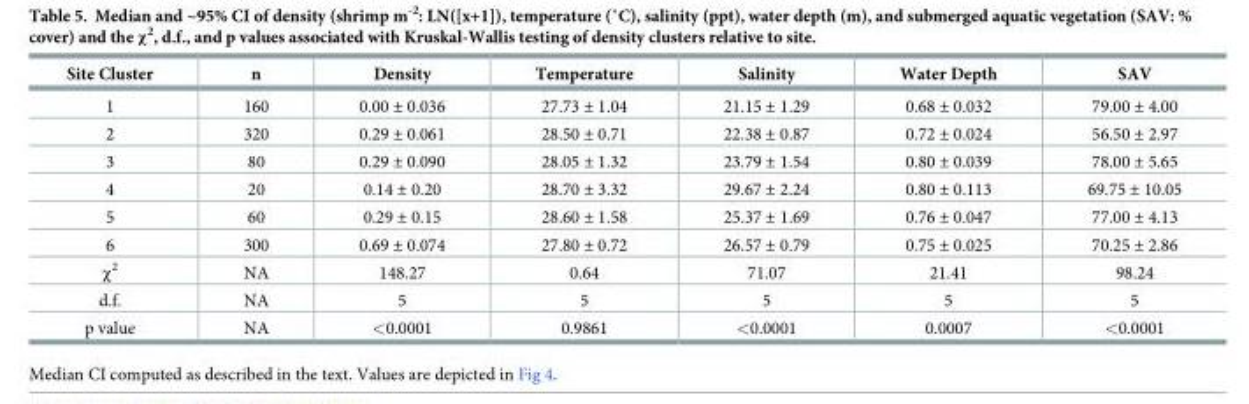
<table><thead><tr><td>Site Cluster</td><td>n</td><td>Density</td><td>Temperature</td><td>Salinity</td><td>Water Depth</td><td>SAV</td></tr></thead><tbody><tr><td>1</td><td>160</td><td>0.00 ± 0.036</td><td>27.73 ± 1.04</td><td>21.15 ± 1.29</td><td>0.68 ± 0.032</td><td>79.00 ± 4.00</td></tr><tr><td>2</td><td>320</td><td>0.29 ± 0.061</td><td>28.50 ± 0.71</td><td>22.38 ± 0.87</td><td>0.72 ± 0.024</td><td>56.50 ± 2.97</td></tr><tr><td>3</td><td>80</td><td>0.29 ± 0.090</td><td>28.05 ± 1.32</td><td>23.79 ± 1.54</td><td>0.80 ± 0.039</td><td>78.00 ± 5.65</td></tr><tr><td>4</td><td>20</td><td>0.14 ± 0.20</td><td>28.70 ± 3.32</td><td>29.67 ± 2.24</td><td>0.80 ± 0.113</td><td>69.75 ± 10.05</td></tr><tr><td>5</td><td>60</td><td>0.29 ± 0.15</td><td>28.60 ± 1.58</td><td>25.37 ± 1.69</td><td>0.76 ± 0.047</td><td>77.00 ± 4.13</td></tr><tr><td>6</td><td>300</td><td>0.69 ± 0.074</td><td>27.80 ± 0.72</td><td>26.57 ± 0.79</td><td>0.75 ± 0.025</td><td>70.25 ± 2.86</td></tr><tr><td>χ<sup>2</sup></td><td>NA</td><td>148.27</td><td>0.64</td><td>71.07</td><td>21.41</td><td>98.24</td></tr><tr><td>d.f.</td><td>NA</td><td>5</td><td>5</td><td>5</td><td>5</td><td>5</td></tr><tr><td>p value</td><td>NA</td><td>&lt;0.0001</td><td>0.9861</td><td>&lt;0.0001</td><td>0.0007</td><td>&lt;0.0001</td></tr></tbody></table>